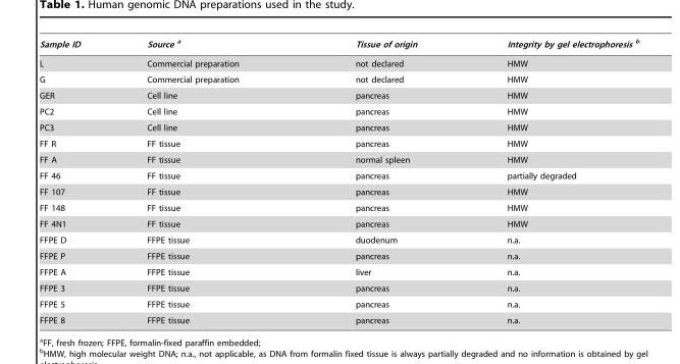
<table><thead><tr><td>Sample ID</td><td>Source a</td><td>Tissue of origin</td><td>Integrity by gel electrophoresis b</td></tr></thead><tbody><tr><td>L</td><td>Commercial preparation</td><td>not declared</td><td>HMW</td></tr><tr><td>G</td><td>Commercial preparation</td><td>not declared</td><td>HMW</td></tr><tr><td>GER</td><td>Cell line</td><td>pancreas</td><td>HMW</td></tr><tr><td>PC2</td><td>Cell line</td><td>pancreas</td><td>HMW</td></tr><tr><td>PC3</td><td>Cell line</td><td>pancreas</td><td>HMW</td></tr><tr><td>FF R</td><td>FF tissue</td><td>pancreas</td><td>HMW</td></tr><tr><td>FF A</td><td>FF tissue</td><td>normal spleen</td><td>HMW</td></tr><tr><td>FF 46</td><td>FF tissue</td><td>pancreas</td><td>partially degraded</td></tr><tr><td>FF 107</td><td>FF tissue</td><td>pancreas</td><td>HMW</td></tr><tr><td>FF 148</td><td>FF tissue</td><td>pancreas</td><td>HMW</td></tr><tr><td>FF 4N1</td><td>FF tissue</td><td>pancreas</td><td>HMW</td></tr><tr><td>FFPE D</td><td>FFPE tissue</td><td>duodenum</td><td>n.a.</td></tr><tr><td>FFPE P</td><td>FFPE tissue</td><td>pancreas</td><td>n.a.</td></tr><tr><td>FFPE A</td><td>FFPE tissue</td><td>liver</td><td>n.a.</td></tr><tr><td>FFPE 3</td><td>FFPE tissue</td><td>pancreas</td><td>n.a.</td></tr><tr><td>FFPE 5</td><td>FFPE tissue</td><td>pancreas</td><td>n.a.</td></tr><tr><td>FFPE 8</td><td>FFPE tissue</td><td>pancreas</td><td>n.a.</td></tr></tbody></table>